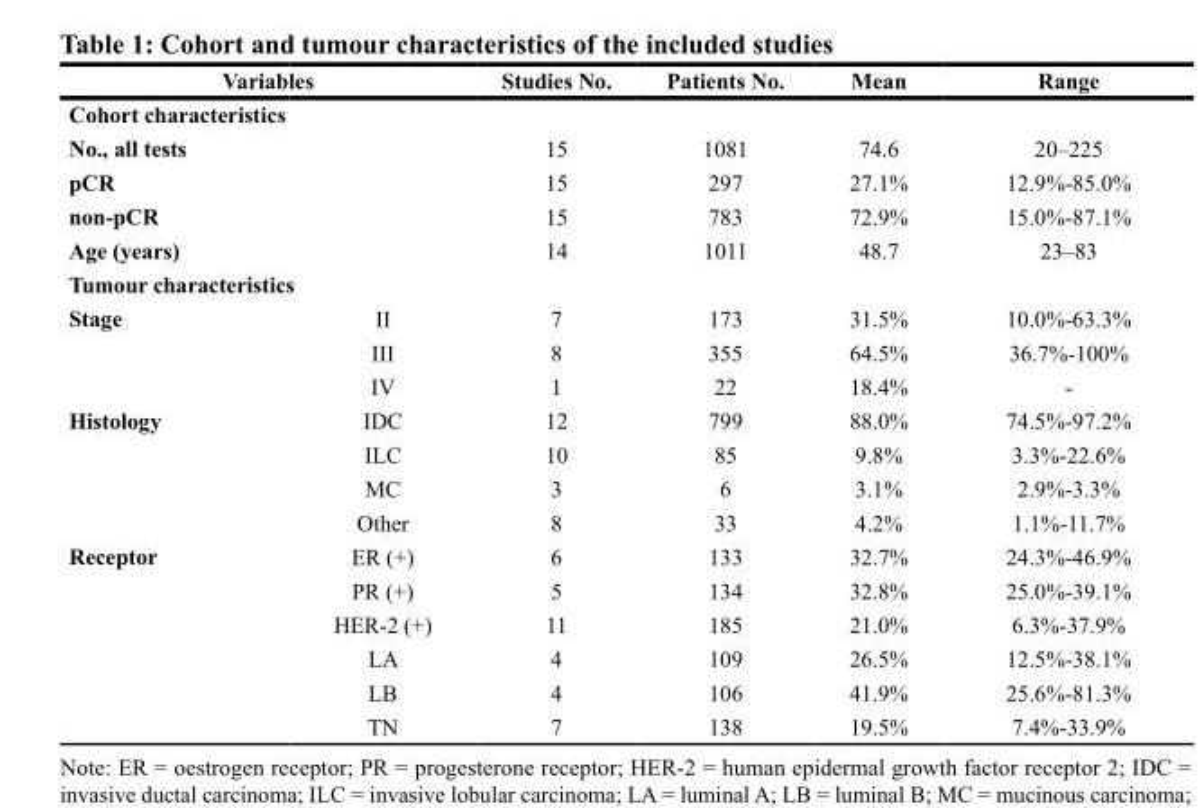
<table><thead><tr><td>Variables</td><td></td><td>Studies No.</td><td>Patients No.</td><td>Mean</td><td>Range</td></tr></thead><tbody><tr><td colspan="6">Cohort characteristics</td></tr><tr><td>No., all tests</td><td></td><td>15</td><td>1081</td><td>74.6</td><td>20–225</td></tr><tr><td>pCR</td><td></td><td>15</td><td>297</td><td>27.1%</td><td>12.9%-85.0%</td></tr><tr><td>non-pCR</td><td></td><td>15</td><td>783</td><td>72.9%</td><td>15.0%-87.1%</td></tr><tr><td>Age (years)</td><td></td><td>14</td><td>1011</td><td>48.7</td><td>23–83</td></tr><tr><td colspan="6">Tumour characteristics</td></tr><tr><td rowspan="3">Stage</td><td>II</td><td>7</td><td>173</td><td>31.5%</td><td>10.0%-63.3%</td></tr><tr><td>III</td><td>8</td><td>355</td><td>64.5%</td><td>36.7%-100%</td></tr><tr><td>IV</td><td>1</td><td>22</td><td>18.4%</td><td>-</td></tr><tr><td rowspan="4">Histology</td><td>IDC</td><td>12</td><td>799</td><td>88.0%</td><td>74.5%-97.2%</td></tr><tr><td>ILC</td><td>10</td><td>85</td><td>9.8%</td><td>3.3%-22.6%</td></tr><tr><td>MC</td><td>3</td><td>6</td><td>3.1%</td><td>2.9%-3.3%</td></tr><tr><td>Other</td><td>8</td><td>33</td><td>4.2%</td><td>1.1%-11.7%</td></tr><tr><td rowspan="6">Receptor</td><td>ER (+)</td><td>6</td><td>133</td><td>32.7%</td><td>24.3%-46.9%</td></tr><tr><td>PR (+)</td><td>5</td><td>134</td><td>32.8%</td><td>25.0%-39.1%</td></tr><tr><td>HER-2 (+)</td><td>11</td><td>185</td><td>21.0%</td><td>6.3%-37.9%</td></tr><tr><td>LA</td><td>4</td><td>109</td><td>26.5%</td><td>12.5%-38.1%</td></tr><tr><td>LB</td><td>4</td><td>106</td><td>41.9%</td><td>25.6%-81.3%</td></tr><tr><td>TN</td><td>7</td><td>138</td><td>19.5%</td><td>7.4%-33.9%</td></tr></tbody></table>